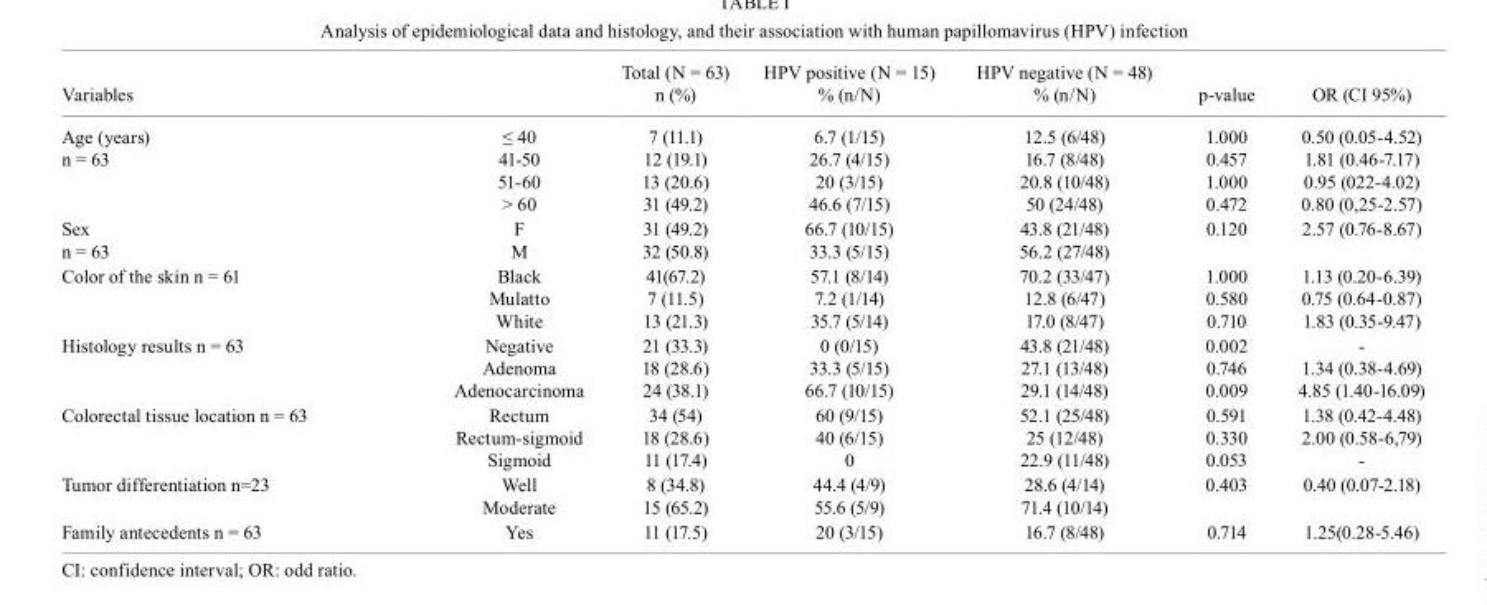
<table><thead><tr><td>Variables</td><td></td><td>Total (N = 63) n (%)</td><td>HPV positive (N = 15) % (n/N)</td><td>HPV negative (N = 48) % (n/N)</td><td>p-value</td><td>OR (CI 95%)</td></tr></thead><tbody><tr><td>Age (years) n = 63</td><td>≤ 40 41-50 51-60 &gt; 60</td><td>7 (11.1) 12 (19.1) 13 (20.6) 31 (49.2)</td><td>6.7 (1/15) 26.7 (4/15) 20 (3/15) 46.6 (7/15)</td><td>12.5 (6/48) 16.7 (8/48) 20.8 (10/48) 50 (24/48)</td><td>1.000 0.457 1.000 0.472</td><td>0.50 (0.05-4.52) 1.81 (0.46-7.17) 0.95 (022-4.02) 0.80 (0,25-2.57)</td></tr><tr><td>Sex n = 63</td><td>F M</td><td>31 (49.2) 32 (50.8)</td><td>66.7 (10/15) 33.3 (5/15)</td><td>43.8 (21/48) 56.2 (27/48)</td><td>0.120</td><td>2.57 (0.76-8.67)</td></tr><tr><td>Color of the skin n = 61</td><td>Black Mulatto White</td><td>41(67.2) 7 (11.5) 13 (21.3)</td><td>57.1 (8/14) 7.2 (1/14) 35.7 (5/14)</td><td>70.2 (33/47) 12.8 (6/47) 17.0 (8/47)</td><td>1.000 0.580 0.710</td><td>1.13 (0.20-6.39) 0.75 (0.64-0.87) 1.83 (0.35-9.47)</td></tr><tr><td>Histology results n = 63</td><td>Negative Adenoma Adenocarcinoma</td><td>21 (33.3) 18 (28.6) 24 (38.1)</td><td>0 (0/15) 33.3 (5/15) 66.7 (10/15)</td><td>43.8 (21/48) 27.1 (13/48) 29.1 (14/48)</td><td>0.002 0.746 0.009</td><td>- 1.34 (0.38-4.69) 4.85 (1.40-16.09)</td></tr><tr><td>Colorectal tissue location n = 63</td><td>Rectum Rectum-sigmoid Sigmoid</td><td>34 (54) 18 (28.6) 11 (17.4)</td><td>60 (9/15) 40 (6/15) 0</td><td>52.1 (25/48) 25 (12/48) 22.9 (11/48)</td><td>0.591 0.330 0.053</td><td>1.38 (0.42-4.48) 2.00 (0.58-6,79) -</td></tr><tr><td>Tumor differentiation n=23</td><td>Well Moderate</td><td>8 (34.8) 15 (65.2)</td><td>44.4 (4/9) 55.6 (5/9)</td><td>28.6 (4/14) 71.4 (10/14)</td><td>0.403</td><td>0.40 (0.07-2.18)</td></tr><tr><td>Family antecedents n = 63</td><td>Yes</td><td>11 (17.5)</td><td>20 (3/15)</td><td>16.7 (8/48)</td><td>0.714</td><td>1.25(0.28-5.46)</td></tr></tbody></table>